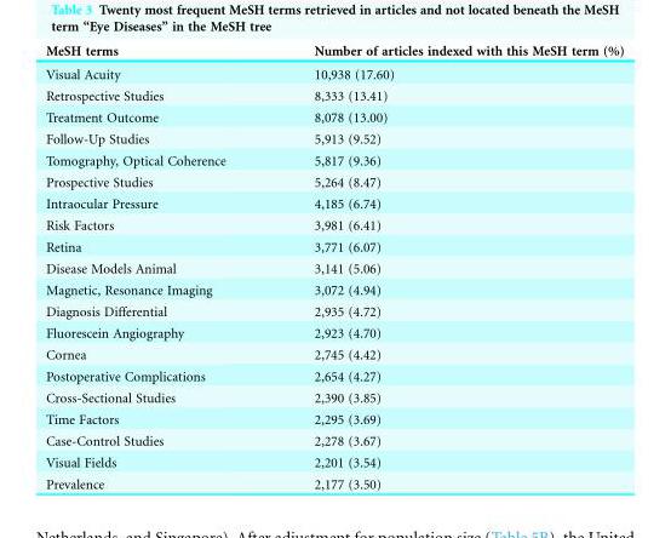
<table><thead><tr><td>MeSH terms</td><td>Number of articles indexed with this MeSH term (%)</td></tr></thead><tbody><tr><td>Visual Acuity</td><td>10,938 (17.60)</td></tr><tr><td>Retrospective Studies</td><td>8,333 (13.41)</td></tr><tr><td>Treatment Outcome</td><td>8,078 (13.00)</td></tr><tr><td>Follow-Up Studies</td><td>5,913 (9.52)</td></tr><tr><td>Tomography, Optical Coherence</td><td>5,817 (9.36)</td></tr><tr><td>Prospective Studies</td><td>5,264 (8.47)</td></tr><tr><td>Intraocular Pressure</td><td>4,185 (6.74)</td></tr><tr><td>Risk Factors</td><td>3,981 (6.41)</td></tr><tr><td>Retina</td><td>3,771 (6.07)</td></tr><tr><td>Disease Models Animal</td><td>3,141 (5.06)</td></tr><tr><td>Magnetic, Resonance Imaging</td><td>3,072 (4.94)</td></tr><tr><td>Diagnosis Differential</td><td>2,935 (4.72)</td></tr><tr><td>Fluorescein Angiography</td><td>2,923 (4.70)</td></tr><tr><td>Cornea</td><td>2,745 (4.42)</td></tr><tr><td>Postoperative Complications</td><td>2,654 (4.27)</td></tr><tr><td>Cross-Sectional Studies</td><td>2,390 (3.85)</td></tr><tr><td>Time Factors</td><td>2,295 (3.69)</td></tr><tr><td>Case-Control Studies</td><td>2,278 (3.67)</td></tr><tr><td>Visual Fields</td><td>2,201 (3.54)</td></tr><tr><td>Prevalence</td><td>2,177 (3.50)</td></tr></tbody></table>